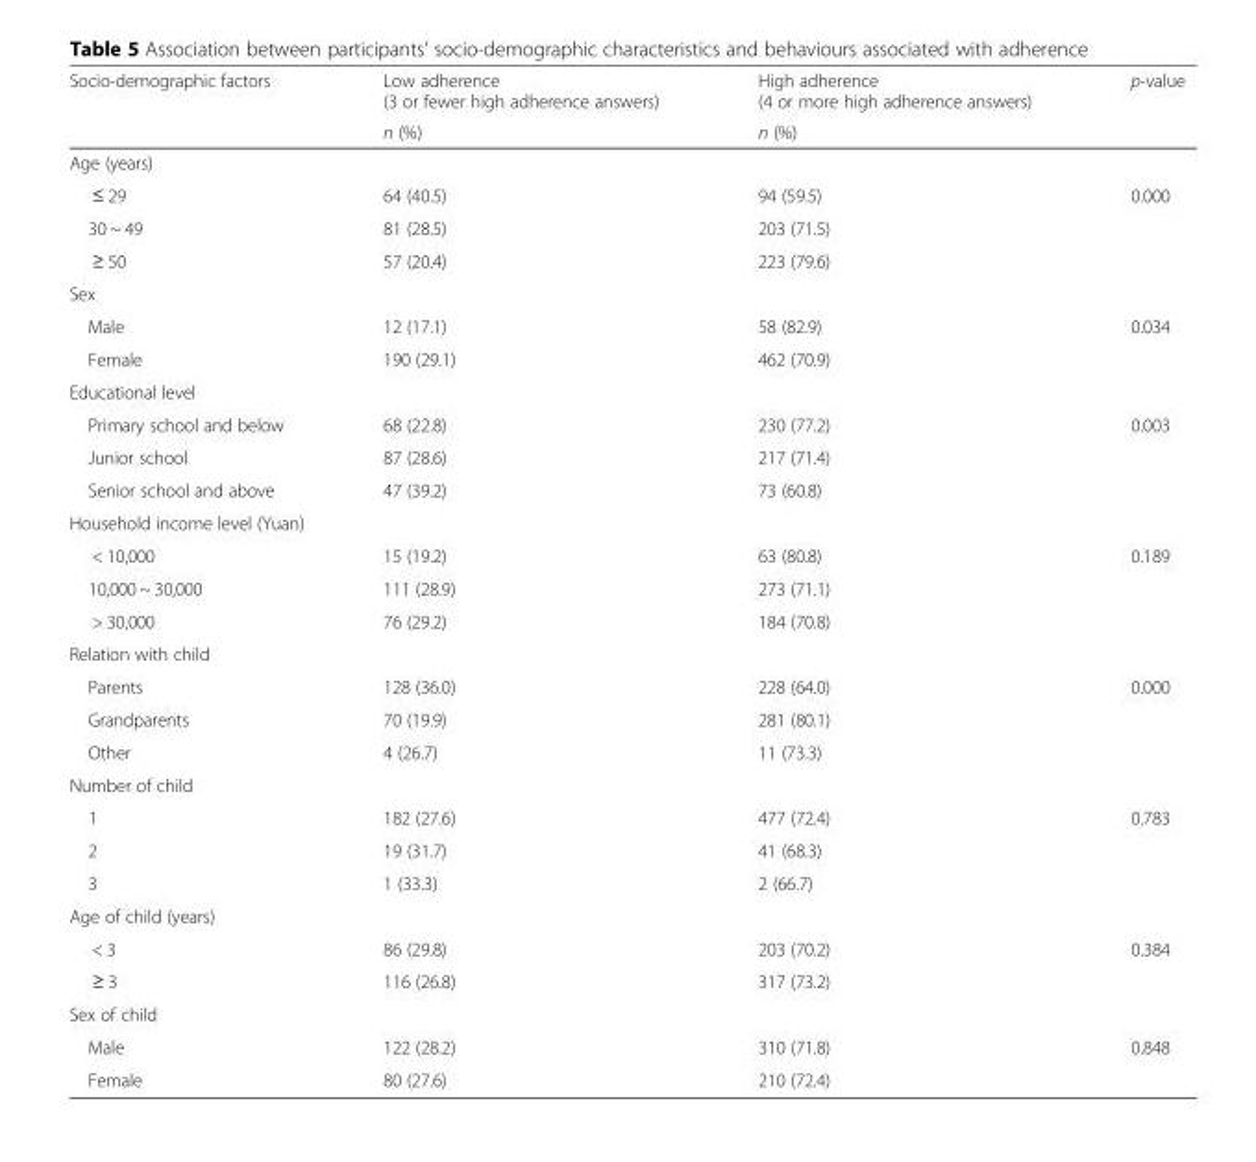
<table><thead><tr><td rowspan="2">Socio-demographic factors</td><td rowspan="2">Low adherence (3 or fewer high adherence answers) n (%)</td><td rowspan="2">High adherence (4 or more high adherence answers) n (%)</td><td rowspan="2">p-value</td></tr><tr></tr></thead><tbody><tr><td colspan="4">Age (years)</td></tr><tr><td>≤ 29</td><td>64 (40.5)</td><td>94 (59.5)</td><td rowspan="3">0.000</td></tr><tr><td>30 ~ 49</td><td>81 (28.5)</td><td>203 (71.5)</td></tr><tr><td>≥ 50</td><td>57 (20.4)</td><td>223 (79.6)</td></tr><tr><td colspan="4">Sex</td></tr><tr><td>Male</td><td>12 (17.1)</td><td>58 (82.9)</td><td rowspan="2">0.034</td></tr><tr><td>Female</td><td>190 (29.1)</td><td>462 (70.9)</td></tr><tr><td colspan="4">Educational level</td></tr><tr><td>Primary school and below</td><td>68 (22.8)</td><td>230 (77.2)</td><td rowspan="3">0.003</td></tr><tr><td>Junior school</td><td>87 (28.6)</td><td>217 (71.4)</td></tr><tr><td>Senior school and above</td><td>47 (39.2)</td><td>73 (60.8)</td></tr><tr><td colspan="4">Household income level (Yuan)</td></tr><tr><td>&lt; 10,000</td><td>15 (19.2)</td><td>63 (80.8)</td><td rowspan="3">0.189</td></tr><tr><td>10,000 ~ 30,000</td><td>111 (28.9)</td><td>273 (71.1)</td></tr><tr><td>&gt; 30,000</td><td>76 (29.2)</td><td>184 (70.8)</td></tr><tr><td colspan="4">Relation with child</td></tr><tr><td>Parents</td><td>128 (36.0)</td><td>228 (64.0)</td><td rowspan="3">0.000</td></tr><tr><td>Grandparents</td><td>70 (19.9)</td><td>281 (80.1)</td></tr><tr><td>Other</td><td>4 (26.7)</td><td>11 (73.3)</td></tr><tr><td colspan="4">Number of child</td></tr><tr><td>1</td><td>182 (27.6)</td><td>477 (72.4)</td><td rowspan="3">0.783</td></tr><tr><td>2</td><td>19 (31.7)</td><td>41 (68.3)</td></tr><tr><td>3</td><td>1 (33.3)</td><td>2 (66.7)</td></tr><tr><td colspan="4">Age of child (years)</td></tr><tr><td>&lt; 3</td><td>86 (29.8)</td><td>203 (70.2)</td><td rowspan="2">0.384</td></tr><tr><td>≥ 3</td><td>116 (26.8)</td><td>317 (73.2)</td></tr><tr><td colspan="4">Sex of child</td></tr><tr><td>Male</td><td>122 (28.2)</td><td>310 (71.8)</td><td rowspan="2">0.848</td></tr><tr><td>Female</td><td>80 (27.6)</td><td>210 (72.4)</td></tr></tbody></table>